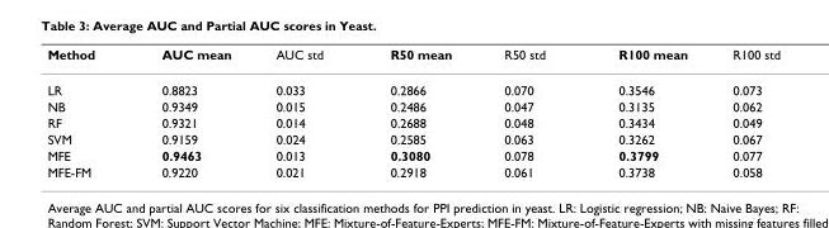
<table><thead><tr><td>Method</td><td>AUC mean</td><td>AUC std</td><td>R50 mean</td><td>R50 std</td><td>R100 mean</td><td>R100 std</td></tr></thead><tbody><tr><td>LR</td><td>0.8823</td><td>0.033</td><td>0.2866</td><td>0.070</td><td>0.3546</td><td>0.073</td></tr><tr><td>NB</td><td>0.9349</td><td>0.015</td><td>0.2486</td><td>0.047</td><td>0.3135</td><td>0.062</td></tr><tr><td>RF</td><td>0.9321</td><td>0.014</td><td>0.2688</td><td>0.048</td><td>0.3434</td><td>0.049</td></tr><tr><td>SVM</td><td>0.9159</td><td>0.024</td><td>0.2585</td><td>0.063</td><td>0.3262</td><td>0.067</td></tr><tr><td>MFE</td><td>0.9463</td><td>0.013</td><td>0.3080</td><td>0.078</td><td>0.3799</td><td>0.077</td></tr><tr><td>MFE-FM</td><td>0.9220</td><td>0.021</td><td>0.2918</td><td>0.061</td><td>0.3738</td><td>0.058</td></tr></tbody></table>